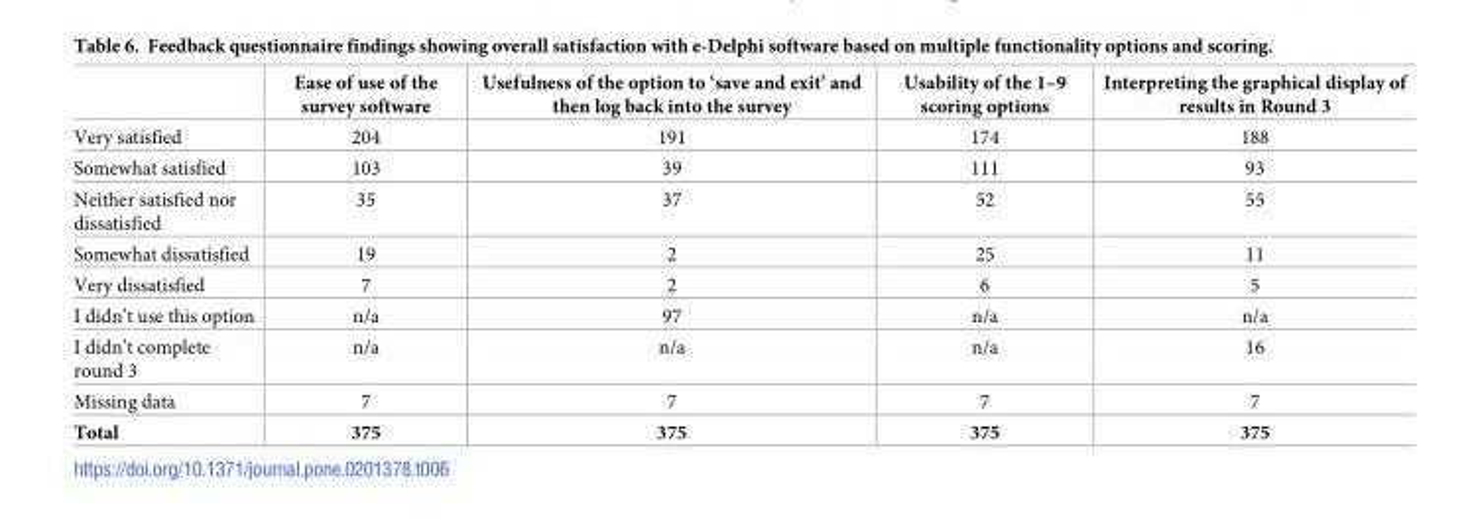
<table><thead><tr><td></td><td>Ease of use of the survey software</td><td>Usefulness of the option to ‘save and exit’ and then log back into the survey</td><td>Usability of the 1–9 scoring options</td><td>Interpreting the graphical display of results in Round 3</td></tr></thead><tbody><tr><td>Very satisfied</td><td>204</td><td>191</td><td>174</td><td>188</td></tr><tr><td>Somewhat satisfied</td><td>103</td><td>39</td><td>111</td><td>93</td></tr><tr><td>Neither satisfied nor dissatisfied</td><td>35</td><td>37</td><td>52</td><td>55</td></tr><tr><td>Somewhat dissatisfied</td><td>19</td><td>2</td><td>25</td><td>11</td></tr><tr><td>Very dissatisfied</td><td>7</td><td>2</td><td>6</td><td>5</td></tr><tr><td>I didn’t use this option</td><td>n/a</td><td>97</td><td>n/a</td><td>n/a</td></tr><tr><td>I didn’t complete round 3</td><td>n/a</td><td>n/a</td><td>n/a</td><td>16</td></tr><tr><td>Missing data</td><td>7</td><td>7</td><td>7</td><td>7</td></tr><tr><td>Total</td><td>375</td><td>375</td><td>375</td><td>375</td></tr></tbody></table>